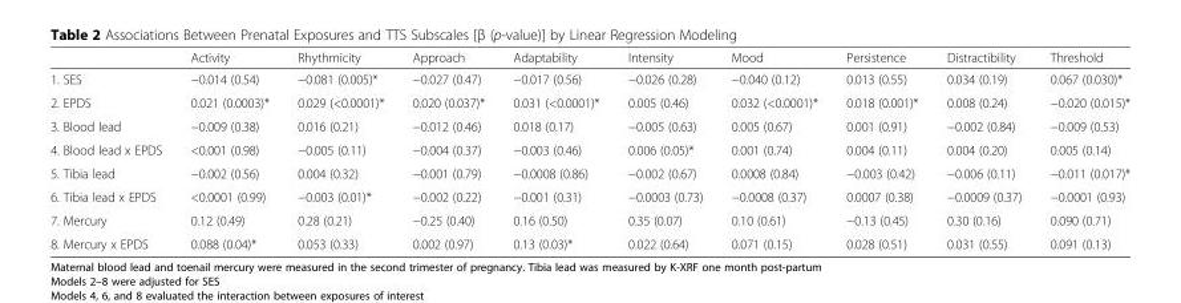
<table><thead><tr><td></td><td>Activity</td><td>Rhythmicity</td><td>Approach</td><td>Adaptability</td><td>Intensity</td><td>Mood</td><td>Persistence</td><td>Distractibility</td><td>Threshold</td></tr></thead><tbody><tr><td>1. SES</td><td>−0.014 (0.54)</td><td>−0.081 (0.005)*</td><td>−0.027 (0.47)</td><td>−0.017 (0.56)</td><td>−0.026 (0.28)</td><td>−0.040 (0.12)</td><td>0.013 (0.55)</td><td>0.034 (0.19)</td><td>0.067 (0.030)*</td></tr><tr><td>2. EPDS</td><td>0.021 (0.0003)*</td><td>0.029 (&lt;0.0001)*</td><td>0.020 (0.037)*</td><td>0.031 (&lt;0.0001)*</td><td>0.005 (0.46)</td><td>0.032 (&lt;0.0001)*</td><td>0.018 (0.001)*</td><td>0.008 (0.24)</td><td>−0.020 (0.015)*</td></tr><tr><td>3. Blood lead</td><td>−0.009 (0.38)</td><td>0.016 (0.21)</td><td>−0.012 (0.46)</td><td>0.018 (0.17)</td><td>−0.005 (0.63)</td><td>0.005 (0.67)</td><td>0.001 (0.91)</td><td>−0.002 (0.84)</td><td>−0.009 (0.53)</td></tr><tr><td>4. Blood lead x EPDS</td><td>&lt;0.001 (0.98)</td><td>−0.005 (0.11)</td><td>−0.004 (0.37)</td><td>−0.003 (0.46)</td><td>0.006 (0.05)*</td><td>0.001 (0.74)</td><td>0.004 (0.11)</td><td>0.004 (0.20)</td><td>0.005 (0.14)</td></tr><tr><td>5. Tibia lead</td><td>−0.002 (0.56)</td><td>0.004 (0.32)</td><td>−0.001 (0.79)</td><td>−0.0008 (0.86)</td><td>−0.002 (0.67)</td><td>0.0008 (0.84)</td><td>−0.003 (0.42)</td><td>−0.006 (0.11)</td><td>−0.011 (0.017)*</td></tr><tr><td>6. Tibia lead x EPDS</td><td>&lt;0.0001 (0.99)</td><td>−0.003 (0.01)*</td><td>−0.002 (0.22)</td><td>−0.001 (0.31)</td><td>−0.0003 (0.73)</td><td>−0.0008 (0.37)</td><td>0.0007 (0.38)</td><td>−0.0009 (0.37)</td><td>−0.0001 (0.93)</td></tr><tr><td>7. Mercury</td><td>0.12 (0.49)</td><td>0.28 (0.21)</td><td>−0.25 (0.40)</td><td>0.16 (0.50)</td><td>0.35 (0.07)</td><td>0.10 (0.61)</td><td>−0.13 (0.45)</td><td>0.30 (0.16)</td><td>0.090 (0.71)</td></tr><tr><td>8. Mercury x EPDS</td><td>0.088 (0.04)*</td><td>0.053 (0.33)</td><td>0.002 (0.97)</td><td>0.13 (0.03)*</td><td>0.022 (0.64)</td><td>0.071 (0.15)</td><td>0.028 (0.51)</td><td>0.031 (0.55)</td><td>0.091 (0.13)</td></tr></tbody></table>